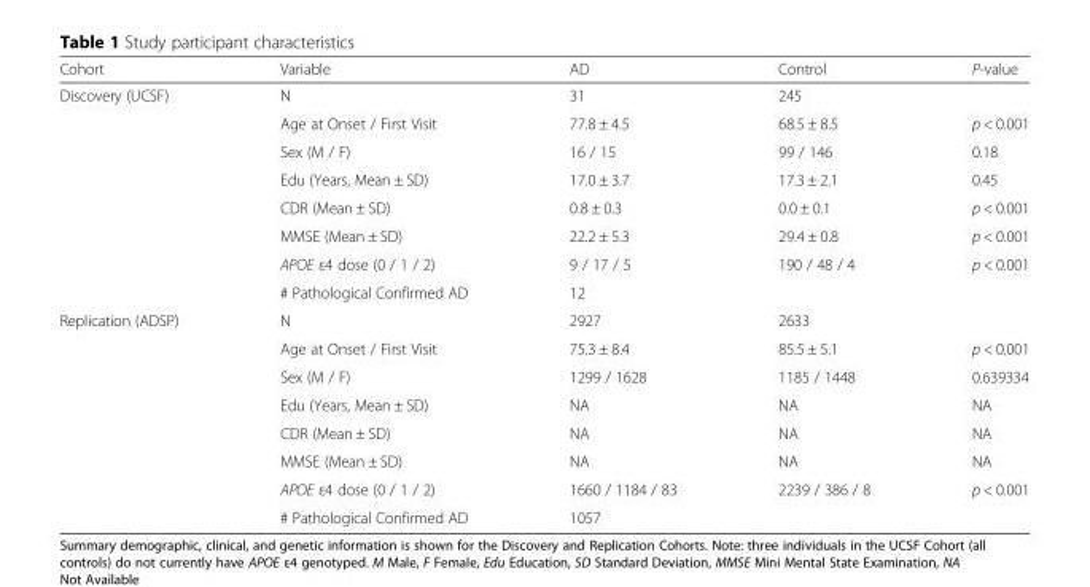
<table><thead><tr><td>Cohort</td><td>Variable</td><td>AD</td><td>Control</td><td>P-value</td></tr></thead><tbody><tr><td rowspan="8">Discovery (UCSF)</td><td>N</td><td>31</td><td>245</td><td></td></tr><tr><td>Age at Onset / First Visit</td><td>77.8 ± 4.5</td><td>68.5 ± 8.5</td><td>p &lt; 0.001</td></tr><tr><td>Sex (M / F)</td><td>16 / 15</td><td>99 / 146</td><td>0.18</td></tr><tr><td>Edu (Years, Mean ± SD)</td><td>17.0 ± 3.7</td><td>17.3 ± 2.1</td><td>0.45</td></tr><tr><td>CDR (Mean ± SD)</td><td>0.8 ± 0.3</td><td>0.0 ± 0.1</td><td>p &lt; 0.001</td></tr><tr><td>MMSE (Mean ± SD)</td><td>22.2 ± 5.3</td><td>29.4 ± 0.8</td><td>p &lt; 0.001</td></tr><tr><td>APOE ε4 dose (0 / 1 / 2)</td><td>9 / 17 / 5</td><td>190 / 48 / 4</td><td>p &lt; 0.001</td></tr><tr><td># Pathological Confirmed AD</td><td>12</td><td></td><td></td></tr><tr><td rowspan="8">Replication (ADSP)</td><td>N</td><td>2927</td><td>2633</td><td></td></tr><tr><td>Age at Onset / First Visit</td><td>75.3 ± 8.4</td><td>85.5 ± 5.1</td><td>p &lt; 0.001</td></tr><tr><td>Sex (M / F)</td><td>1299 / 1628</td><td>1185 / 1448</td><td>0.639334</td></tr><tr><td>Edu (Years, Mean ± SD)</td><td>NA</td><td>NA</td><td>NA</td></tr><tr><td>CDR (Mean ± SD)</td><td>NA</td><td>NA</td><td>NA</td></tr><tr><td>MMSE (Mean ± SD)</td><td>NA</td><td>NA</td><td>NA</td></tr><tr><td>APOE ε4 dose (0 / 1 / 2)</td><td>1660 / 1184 / 83</td><td>2239 / 386 / 8</td><td>p &lt; 0.001</td></tr><tr><td># Pathological Confirmed AD</td><td>1057</td><td></td><td></td></tr></tbody></table>